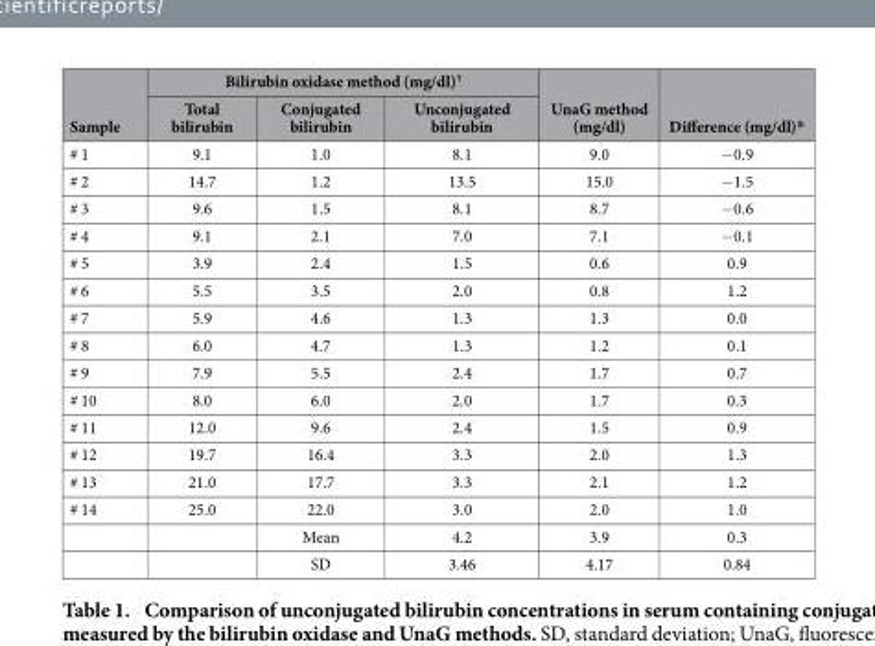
<table><thead><tr><td rowspan="2">Sample</td><td colspan="3">Bilirubin oxidase method (mg/dl)<sup>†</sup></td><td rowspan="2">UnaG method (mg/dl)</td><td rowspan="2">Difference (mg/dl)*</td></tr><tr><td>Total bilirubin</td><td>Conjugated bilirubin</td><td>Unconjugated bilirubin</td></tr></thead><tbody><tr><td># 1</td><td>9.1</td><td>1.0</td><td>8.1</td><td>9.0</td><td>− 0.9</td></tr><tr><td># 2</td><td>14.7</td><td>1.2</td><td>13.5</td><td>15.0</td><td>− 1.5</td></tr><tr><td># 3</td><td>9.6</td><td>1.5</td><td>8.1</td><td>8.7</td><td>− 0.6</td></tr><tr><td># 4</td><td>9.1</td><td>2.1</td><td>7.0</td><td>7.1</td><td>− 0.1</td></tr><tr><td># 5</td><td>3.9</td><td>2.4</td><td>1.5</td><td>0.6</td><td>0.9</td></tr><tr><td># 6</td><td>5.5</td><td>3.5</td><td>2.0</td><td>0.8</td><td>1.2</td></tr><tr><td># 7</td><td>5.9</td><td>4.6</td><td>1.3</td><td>1.3</td><td>0.0</td></tr><tr><td># 8</td><td>6.0</td><td>4.7</td><td>1.3</td><td>1.2</td><td>0.1</td></tr><tr><td># 9</td><td>7.9</td><td>5.5</td><td>2.4</td><td>1.7</td><td>0.7</td></tr><tr><td># 10</td><td>8.0</td><td>6.0</td><td>2.0</td><td>1.7</td><td>0.3</td></tr><tr><td># 11</td><td>12.0</td><td>9.6</td><td>2.4</td><td>1.5</td><td>0.9</td></tr><tr><td># 12</td><td>19.7</td><td>16.4</td><td>3.3</td><td>2.0</td><td>1.3</td></tr><tr><td># 13</td><td>21.0</td><td>17.7</td><td>3.3</td><td>2.1</td><td>1.2</td></tr><tr><td rowspan="3"># 14</td><td>25.0</td><td>22.0</td><td>3.0</td><td>2.0</td><td>1.0</td></tr><tr><td></td><td>Mean</td><td>4.2</td><td>3.9</td><td>0.3</td></tr><tr><td></td><td>SD</td><td>3.46</td><td>4.17</td><td>0.84</td></tr></tbody></table>